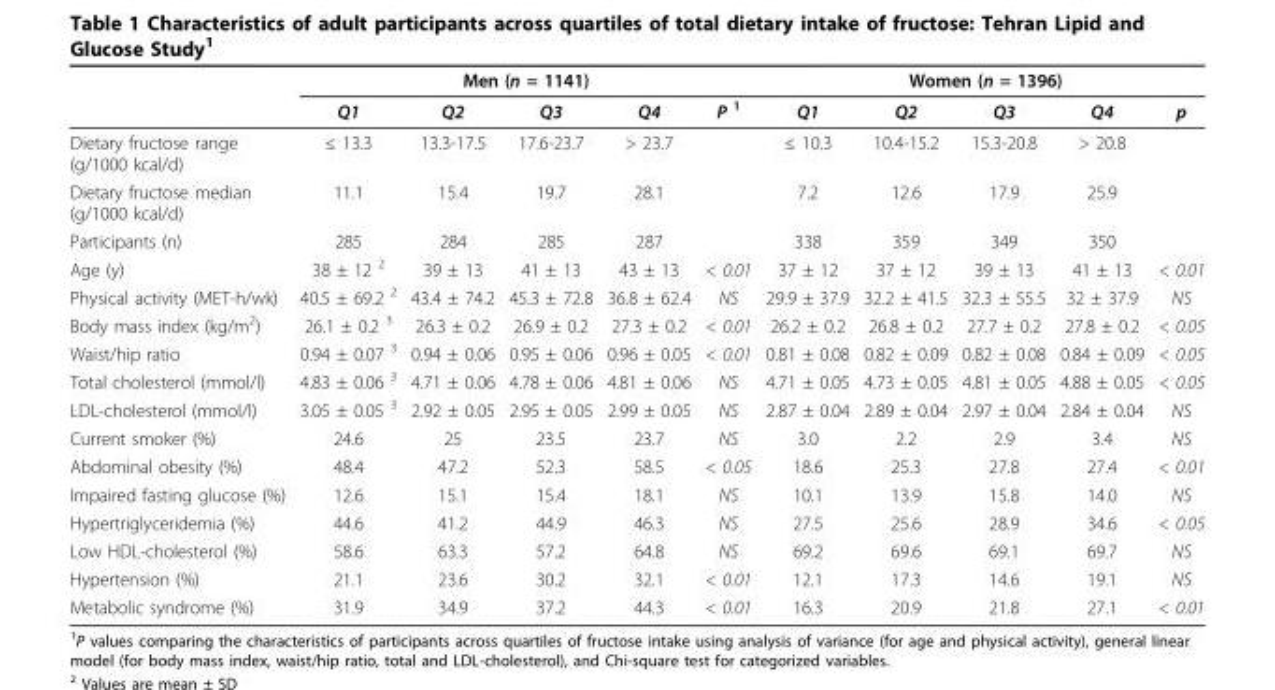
<table><thead><tr><td rowspan="2"></td><td colspan="5">Men (n = 1141)</td><td colspan="5">Women (n = 1396)</td></tr><tr><td>Q1</td><td>Q2</td><td>Q3</td><td>Q4</td><td>P <sup>1</sup></td><td>Q1</td><td>Q2</td><td>Q3</td><td>Q4</td><td>p</td></tr></thead><tbody><tr><td>Dietary fructose range (g/1000 kcal/d)</td><td>≤ 13.3</td><td>13.3-17.5</td><td>17.6-23.7</td><td>&gt; 23.7</td><td></td><td>≤ 10.3</td><td>10.4-15.2</td><td>15.3-20.8</td><td>&gt; 20.8</td><td></td></tr><tr><td>Dietary fructose median (g/1000 kcal/d)</td><td>11.1</td><td>15.4</td><td>19.7</td><td>28.1</td><td></td><td>7.2</td><td>12.6</td><td>17.9</td><td>25.9</td><td></td></tr><tr><td>Participants (n)</td><td>285</td><td>284</td><td>285</td><td>287</td><td></td><td>338</td><td>359</td><td>349</td><td>350</td><td></td></tr><tr><td>Age (y)</td><td>38 ± 12 <sup>2</sup></td><td>39 ± 13</td><td>41 ± 13</td><td>43 ± 13</td><td>&lt; 0.01</td><td>37 ± 12</td><td>37 ± 12</td><td>39 ± 13</td><td>41 ± 13</td><td>&lt; 0.01</td></tr><tr><td>Physical activity (MET-h/wk)</td><td>40.5 ± 69.2 <sup>2</sup></td><td>43.4 ± 74.2</td><td>45.3 ± 72.8</td><td>36.8 ± 62.4</td><td>NS</td><td>29.9 ± 37.9</td><td>32.2 ± 41.5</td><td>32.3 ± 55.5</td><td>32 ± 37.9</td><td>NS</td></tr><tr><td>Body mass index (kg/m<sup>2</sup>)</td><td>26.1 ± 0.2 <sup>3</sup></td><td>26.3 ± 0.2</td><td>26.9 ± 0.2</td><td>27.3 ± 0.2</td><td>&lt; 0.01</td><td>26.2 ± 0.2</td><td>26.8 ± 0.2</td><td>27.7 ± 0.2</td><td>27.8 ± 0.2</td><td>&lt; 0.05</td></tr><tr><td>Waist/hip ratio</td><td>0.94 ± 0.07 <sup>3</sup></td><td>0.94 ± 0.06</td><td>0.95 ± 0.06</td><td>0.96 ± 0.05</td><td>&lt; 0.01</td><td>0.81 ± 0.08</td><td>0.82 ± 0.09</td><td>0.82 ± 0.08</td><td>0.84 ± 0.09</td><td>&lt; 0.05</td></tr><tr><td>Total cholesterol (mmol/l)</td><td>4.83 ± 0.06 <sup>3</sup></td><td>4.71 ± 0.06</td><td>4.78 ± 0.06</td><td>4.81 ± 0.06</td><td>NS</td><td>4.71 ± 0.05</td><td>4.73 ± 0.05</td><td>4.81 ± 0.05</td><td>4.88 ± 0.05</td><td>&lt; 0.05</td></tr><tr><td>LDL-cholesterol (mmol/l)</td><td>3.05 ± 0.05 <sup>3</sup></td><td>2.92 ± 0.05</td><td>2.95 ± 0.05</td><td>2.99 ± 0.05</td><td>NS</td><td>2.87 ± 0.04</td><td>2.89 ± 0.04</td><td>2.97 ± 0.04</td><td>2.84 ± 0.04</td><td>NS</td></tr><tr><td>Current smoker (%)</td><td>24.6</td><td>25</td><td>23.5</td><td>23.7</td><td>NS</td><td>3.0</td><td>2.2</td><td>2.9</td><td>3.4</td><td>NS</td></tr><tr><td>Abdominal obesity (%)</td><td>48.4</td><td>47.2</td><td>52.3</td><td>58.5</td><td>&lt; 0.05</td><td>18.6</td><td>25.3</td><td>27.8</td><td>27.4</td><td>&lt; 0.01</td></tr><tr><td>Impaired fasting glucose (%)</td><td>12.6</td><td>15.1</td><td>15.4</td><td>18.1</td><td>NS</td><td>10.1</td><td>13.9</td><td>15.8</td><td>14.0</td><td>NS</td></tr><tr><td>Hypertriglyceridemia (%)</td><td>44.6</td><td>41.2</td><td>44.9</td><td>46.3</td><td>NS</td><td>27.5</td><td>25.6</td><td>28.9</td><td>34.6</td><td>&lt; 0.05</td></tr><tr><td>Low HDL-cholesterol (%)</td><td>58.6</td><td>63.3</td><td>57.2</td><td>64.8</td><td>NS</td><td>69.2</td><td>69.6</td><td>69.1</td><td>69.7</td><td>NS</td></tr><tr><td>Hypertension (%)</td><td>21.1</td><td>23.6</td><td>30.2</td><td>32.1</td><td>&lt; 0.01</td><td>12.1</td><td>17.3</td><td>14.6</td><td>19.1</td><td>NS</td></tr><tr><td>Metabolic syndrome (%)</td><td>31.9</td><td>34.9</td><td>37.2</td><td>44.3</td><td>&lt; 0.01</td><td>16.3</td><td>20.9</td><td>21.8</td><td>27.1</td><td>&lt; 0.01</td></tr></tbody></table>